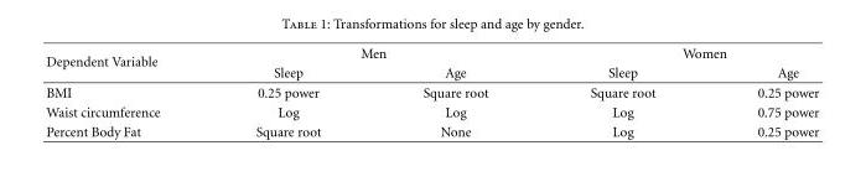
<table><thead><tr><td rowspan="2">Dependent Variable</td><td colspan="2">Men</td><td colspan="2">Women</td></tr><tr><td>Sleep</td><td>Age</td><td>Sleep</td><td>Age</td></tr></thead><tbody><tr><td>BMI</td><td>0.25 power</td><td>Square root</td><td>Square root</td><td>0.25 power</td></tr><tr><td>Waist circumference</td><td>Log</td><td>Log</td><td>Log</td><td>0.75 power</td></tr><tr><td>Percent Body Fat</td><td>Square root</td><td>None</td><td>Log</td><td>0.25 power</td></tr></tbody></table>